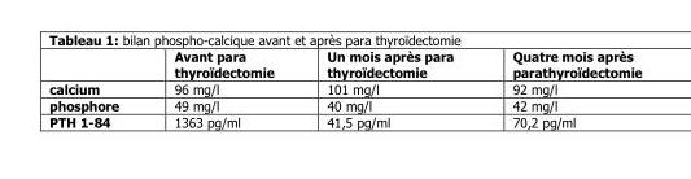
<table><thead><tr><td></td><td>Avant para thyroïdectomie</td><td>Un mois après para thyroïdectomie</td><td>Quatre mois après parathyroïdectomie</td></tr></thead><tbody><tr><td>calcium</td><td>96 mg/l</td><td>101 mg/l</td><td>92 mg/l</td></tr><tr><td>phosphore</td><td>49 mg/l</td><td>40 mg/l</td><td>42 mg/l</td></tr><tr><td>PTH 1-84</td><td>1363 pg/ml</td><td>41,5 pg/ml</td><td>70,2 pg/ml</td></tr></tbody></table>